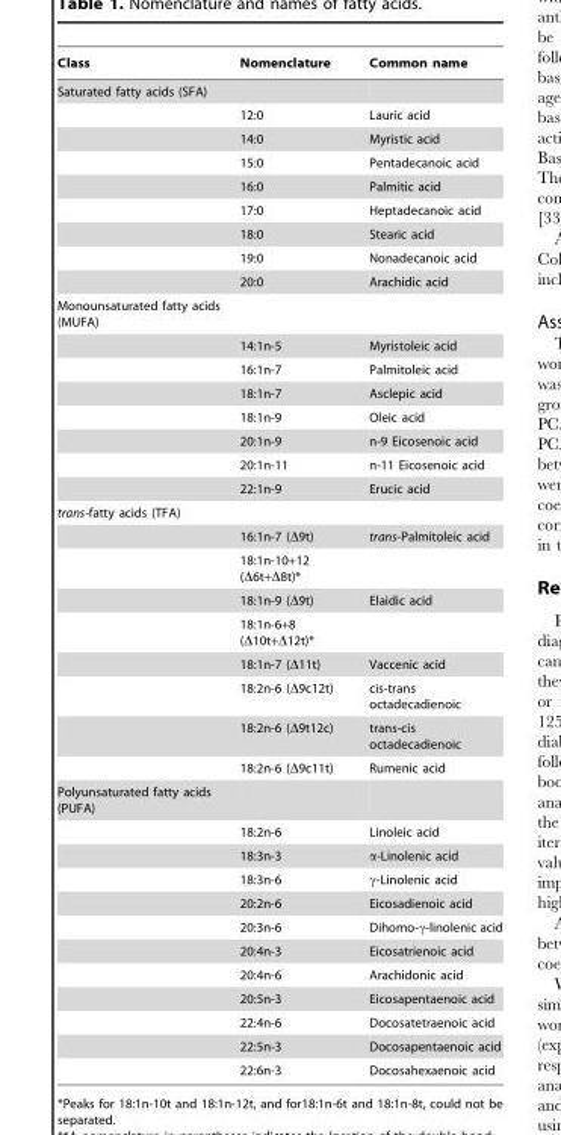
<table><thead><tr><td>Class</td><td>Nomenclature</td><td>Common name</td></tr></thead><tbody><tr><td colspan="3">Saturated fatty acids (SFA)</td></tr><tr><td></td><td>12:0</td><td>Lauric acid</td></tr><tr><td></td><td>14:0</td><td>Myristic acid</td></tr><tr><td></td><td>15:0</td><td>Pentadecanoic acid</td></tr><tr><td></td><td>16:0</td><td>Palmitic acid</td></tr><tr><td></td><td>17:0</td><td>Heptadecanoic acid</td></tr><tr><td></td><td>18:0</td><td>Stearic acid</td></tr><tr><td></td><td>19:0</td><td>Nonadecanoic acid</td></tr><tr><td></td><td>20:0</td><td>Arachidic acid</td></tr><tr><td colspan="3">Monounsaturated fatty acids (MUFA)</td></tr><tr><td></td><td>14:1n-5</td><td>Myristoleic acid</td></tr><tr><td></td><td>16:1n-7</td><td>Palmitoleic acid</td></tr><tr><td></td><td>18:1n-7</td><td>Asclepic acid</td></tr><tr><td></td><td>18:1n-9</td><td>Oleic acid</td></tr><tr><td></td><td>20:1n-9</td><td>n-9 Eicosenoic acid</td></tr><tr><td></td><td>20:1n-11</td><td>n-11 Eicosenoic acid</td></tr><tr><td></td><td>22:1n-9</td><td>Erucic acid</td></tr><tr><td colspan="3">trans-fatty acids (TFA)</td></tr><tr><td></td><td>16:1n-7 (Δ9t)</td><td>trans-Palmitoleic acid</td></tr><tr><td></td><td>18:1n-10+12 (Δ6t+Δ8t)*</td><td></td></tr><tr><td></td><td>18:1n-9 (Δ9t)</td><td>Elaidic acid</td></tr><tr><td></td><td>18:1n-6+8 (Δ10t+Δ12t)*</td><td></td></tr><tr><td></td><td>18:1n-7 (Δ11t)</td><td>Vaccenic acid</td></tr><tr><td></td><td>18:2n-6 (Δ9c12t)</td><td>cis-trans octadecadienoic</td></tr><tr><td></td><td>18:2n-6 (Δ9t12c)</td><td>trans-cis octadecadienoic</td></tr><tr><td></td><td>18:2n-6 (Δ9c11t)</td><td>Rumenic acid</td></tr><tr><td colspan="3">Polyunsaturated fatty acids (PUFA)</td></tr><tr><td></td><td>18:2n-6</td><td>Linoleic acid</td></tr><tr><td></td><td>18:3n-3</td><td>α-Linolenic acid</td></tr><tr><td></td><td>18:3n-6</td><td>γ-Linolenic acid</td></tr><tr><td></td><td>20:2n-6</td><td>Eicosadienoic acid</td></tr><tr><td></td><td>20:3n-6</td><td>Dihomo-γ-linolenic acid</td></tr><tr><td></td><td>20:4n-3</td><td>Eicosatrienoic acid</td></tr><tr><td></td><td>20:4n-6</td><td>Arachidonic acid</td></tr><tr><td></td><td>20:5n-3</td><td>Eicosapentaenoic acid</td></tr><tr><td></td><td>22:4n-6</td><td>Docosatetraenoic acid</td></tr><tr><td></td><td>22:5n-3</td><td>Docosapentaenoic acid</td></tr><tr><td></td><td>22:6n-3</td><td>Docosahexaenoic acid</td></tr></tbody></table>